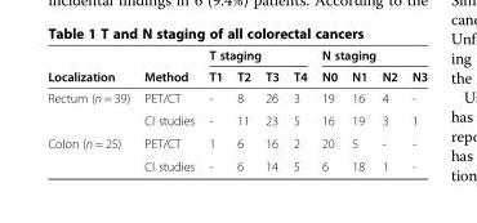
<table><thead><tr><td rowspan="2">Localization</td><td rowspan="2">Method</td><td colspan="4">T staging</td><td colspan="4">N staging</td></tr><tr><td>T1</td><td>T2</td><td>T3</td><td>T4</td><td>N0</td><td>N1</td><td>N2</td><td>N3</td></tr></thead><tbody><tr><td rowspan="2">Rectum (n = 39)</td><td>PET/CT</td><td>-</td><td>8</td><td>26</td><td>3</td><td>19</td><td>16</td><td>4</td><td>-</td></tr><tr><td>CI studies</td><td>-</td><td>11</td><td>23</td><td>5</td><td>16</td><td>19</td><td>3</td><td>1</td></tr><tr><td rowspan="2">Colon (n = 25)</td><td>PET/CT</td><td>1</td><td>6</td><td>16</td><td>2</td><td>20</td><td>5</td><td>-</td><td>-</td></tr><tr><td>CI studies</td><td>-</td><td>6</td><td>14</td><td>5</td><td>6</td><td>18</td><td>1</td><td>-</td></tr></tbody></table>